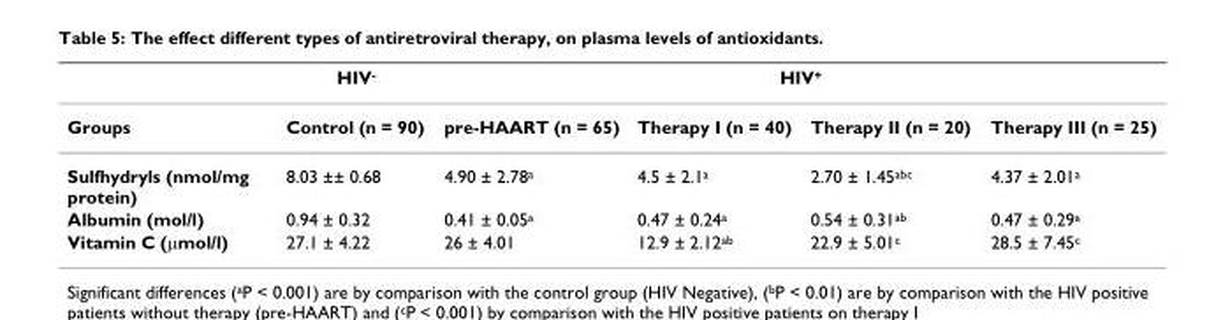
<table><thead><tr><td rowspan="2">Groups</td><td rowspan="2">HIV- Control (n = 90)</td><td colspan="4">HIV+</td></tr><tr><td>pre-HAART (n = 65)</td><td>Therapy I (n = 40)</td><td>Therapy II (n = 20)</td><td>Therapy III (n = 25)</td></tr></thead><tbody><tr><td>Sulfhydryls (nmol/mg protein)</td><td>8.03 ±± 0.68</td><td>4.90 ± 2.78<sup>a</sup></td><td>4.5 ± 2.1<sup>a</sup></td><td>2.70 ± 1.45<sup>abc</sup></td><td>4.37 ± 2.01<sup>a</sup></td></tr><tr><td>Albumin (mol/l)</td><td>0.94 ± 0.32</td><td>0.41 ± 0.05<sup>a</sup></td><td>0.47 ± 0.24<sup>a</sup></td><td>0.54 ± 0.31<sup>ab</sup></td><td>0.47 ± 0.29<sup>a</sup></td></tr><tr><td>Vitamin C (μmol/l)</td><td>27.1 ± 4.22</td><td>26 ± 4.01</td><td>12.9 ± 2.12<sup>ab</sup></td><td>22.9 ± 5.01<sup>c</sup></td><td>28.5 ± 7.45<sup>c</sup></td></tr></tbody></table>